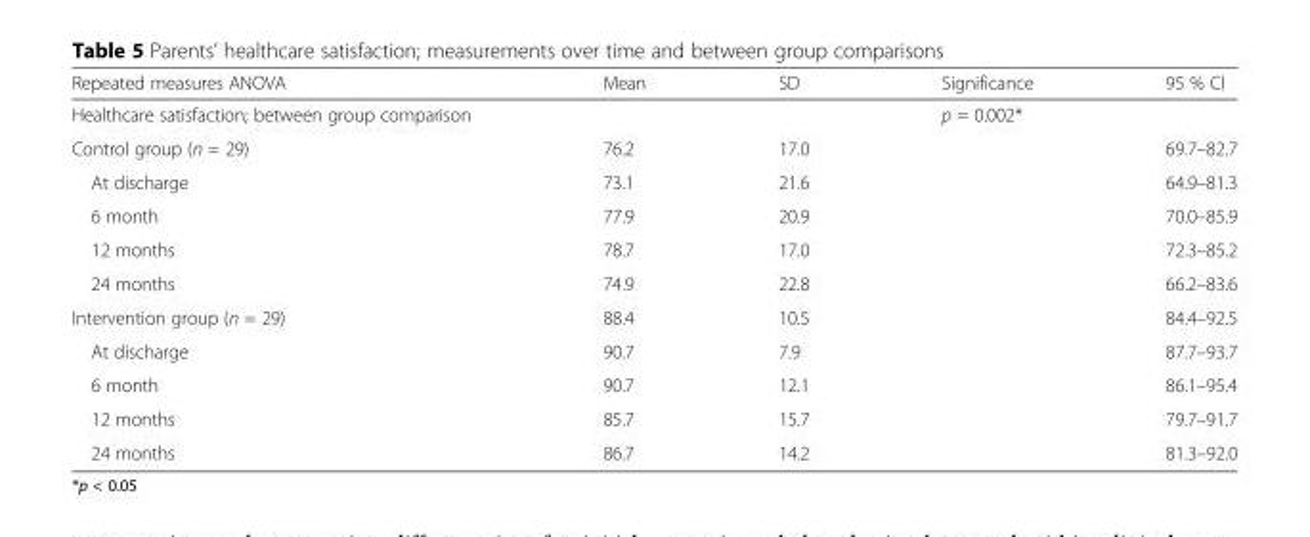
<table><thead><tr><td>Repeated measures ANOVA</td><td>Mean</td><td>SD</td><td>Significance</td><td>95 % Cl</td></tr></thead><tbody><tr><td>Healthcare satisfaction; between group comparison</td><td></td><td></td><td>p = 0.002*</td><td></td></tr><tr><td>Control group (n = 29)</td><td>76.2</td><td>17.0</td><td></td><td>69.7–82.7</td></tr><tr><td>At discharge</td><td>73.1</td><td>21.6</td><td></td><td>64.9–81.3</td></tr><tr><td>6 month</td><td>77.9</td><td>20.9</td><td></td><td>70.0–85.9</td></tr><tr><td>12 months</td><td>78.7</td><td>17.0</td><td></td><td>72.3–85.2</td></tr><tr><td>24 months</td><td>74.9</td><td>22.8</td><td></td><td>66.2–83.6</td></tr><tr><td>Intervention group (n = 29)</td><td>88.4</td><td>10.5</td><td></td><td>84.4–92.5</td></tr><tr><td>At discharge</td><td>90.7</td><td>7.9</td><td></td><td>87.7–93.7</td></tr><tr><td>6 month</td><td>90.7</td><td>12.1</td><td></td><td>86.1–95.4</td></tr><tr><td>12 months</td><td>85.7</td><td>15.7</td><td></td><td>79.7–91.7</td></tr><tr><td>24 months</td><td>86.7</td><td>14.2</td><td></td><td>81.3–92.0</td></tr></tbody></table>